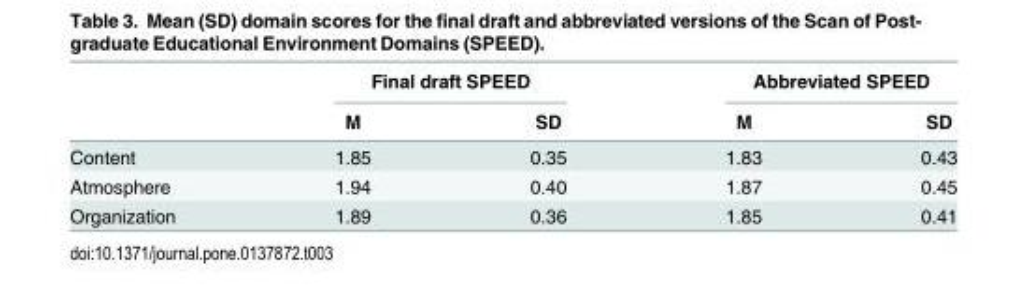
<table><thead><tr><td rowspan="2"></td><td colspan="2">Final draft SPEED</td><td colspan="2">Abbreviated SPEED</td></tr><tr><td>M</td><td>SD</td><td>M</td><td>SD</td></tr></thead><tbody><tr><td>Content</td><td>1.85</td><td>0.35</td><td>1.83</td><td>0.43</td></tr><tr><td>Atmosphere</td><td>1.94</td><td>0.40</td><td>1.87</td><td>0.45</td></tr><tr><td>Organization</td><td>1.89</td><td>0.36</td><td>1.85</td><td>0.41</td></tr></tbody></table>